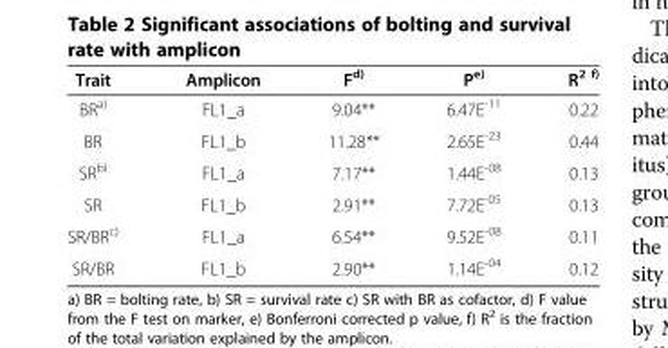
<table><thead><tr><td>Trait</td><td>Amplicon</td><td>F<sup>d)</sup></td><td>P<sup>e)</sup></td><td>R<sup>2 f)</sup></td></tr></thead><tbody><tr><td>BR<sup>a)</sup></td><td>FL1_a</td><td>9.04**</td><td>6.47E<sup>-11</sup></td><td>0.22</td></tr><tr><td>BR</td><td>FL1_b</td><td>11.28**</td><td>2.65E<sup>-23</sup></td><td>0.44</td></tr><tr><td>SR<sup>b)</sup></td><td>FL1_a</td><td>7.17**</td><td>1.44E<sup>-08</sup></td><td>0.13</td></tr><tr><td>SR</td><td>FL1_b</td><td>2.91**</td><td>7.72E<sup>-05</sup></td><td>0.13</td></tr><tr><td>SR/BR<sup>c)</sup></td><td>FL1_a</td><td>6.54**</td><td>9.52E<sup>-08</sup></td><td>0.11</td></tr><tr><td>SR/BR</td><td>FL1_b</td><td>2.90**</td><td>1.14E<sup>-04</sup></td><td>0.12</td></tr></tbody></table>